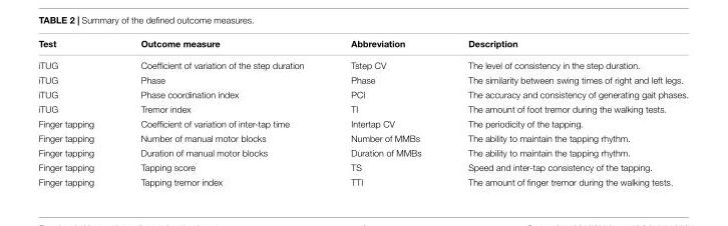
<table><thead><tr><td>Test</td><td>Outcome measure</td><td>Abbreviation</td><td>Description</td></tr></thead><tbody><tr><td>iTUG</td><td>Coefficient of variation of the step duration</td><td>Tstep CV</td><td>The level of consistency in the step duration.</td></tr><tr><td>iTUG</td><td>Phase</td><td>Phase</td><td>The similarity between swing times of right and left legs.</td></tr><tr><td>iTUG</td><td>Phase coordination index</td><td>PCI</td><td>The accuracy and consistency of generating gait phases.</td></tr><tr><td>iTUG</td><td>Tremor index</td><td>TI</td><td>The amount of foot tremor during the walking tests.</td></tr><tr><td>Finger tapping</td><td>Coefficient of variation of inter-tap time</td><td>Intertap CV</td><td>The periodicity of the tapping.</td></tr><tr><td>Finger tapping</td><td>Number of manual motor blocks</td><td>Number of MMBs</td><td>The ability to maintain the tapping rhythm.</td></tr><tr><td>Finger tapping</td><td>Duration of manual motor blocks</td><td>Duration of MMBs</td><td>The ability to maintain the tapping rhythm.</td></tr><tr><td>Finger tapping</td><td>Tapping score</td><td>TS</td><td>Speed and inter-tap consistency of the tapping.</td></tr><tr><td>Finger tapping</td><td>Tapping tremor index</td><td>TTI</td><td>The amount of finger tremor during the walking tests.</td></tr></tbody></table>